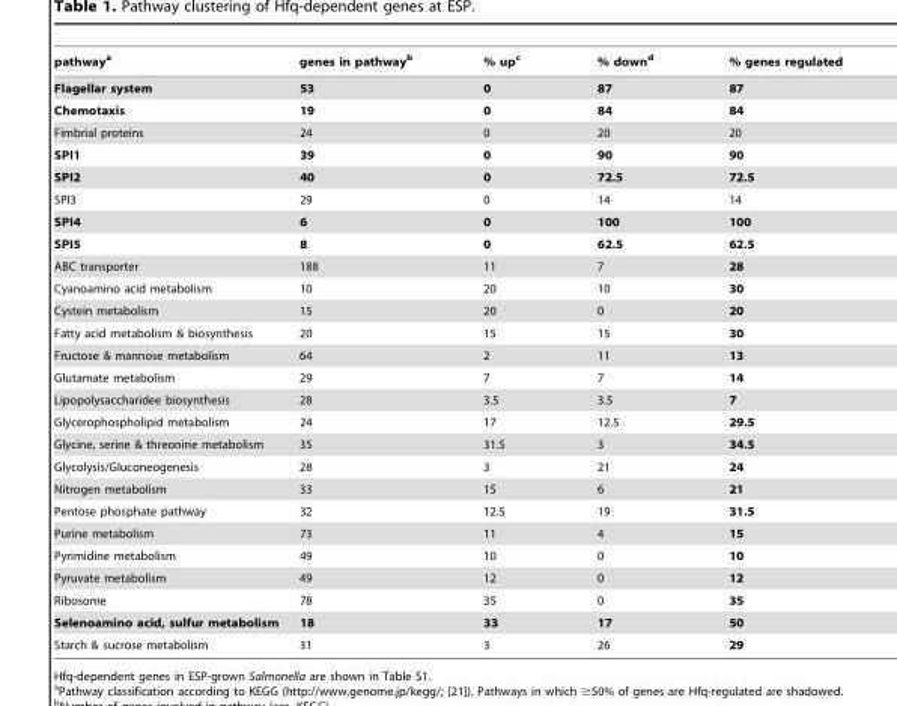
<table><thead><tr><td>pathway<sup>a</sup></td><td>genes in pathway<sup>b</sup></td><td>% up<sup>c</sup></td><td>% down<sup>d</sup></td><td>% genes regulated</td></tr></thead><tbody><tr><td>Flagellar system</td><td>53</td><td>0</td><td>87</td><td>87</td></tr><tr><td>Chemotaxis</td><td>19</td><td>0</td><td>84</td><td>84</td></tr><tr><td>Fimbrial proteins</td><td>24</td><td>0</td><td>20</td><td>20</td></tr><tr><td>SPI1</td><td>39</td><td>0</td><td>90</td><td>90</td></tr><tr><td>SPI2</td><td>40</td><td>0</td><td>72.5</td><td>72.5</td></tr><tr><td>SPI3</td><td>29</td><td>0</td><td>14</td><td>14</td></tr><tr><td>SPI4</td><td>6</td><td>0</td><td>100</td><td>100</td></tr><tr><td>SPI5</td><td>8</td><td>0</td><td>62.5</td><td>62.5</td></tr><tr><td>ABC transporter</td><td>188</td><td>11</td><td>7</td><td>28</td></tr><tr><td>Cyanoamino acid metabolism</td><td>10</td><td>20</td><td>10</td><td>30</td></tr><tr><td>Cystein metabolism</td><td>15</td><td>20</td><td>0</td><td>20</td></tr><tr><td>Fatty acid metabolism &amp; biosynthesis</td><td>20</td><td>15</td><td>15</td><td>30</td></tr><tr><td>Fructose &amp; mannose metabolism</td><td>64</td><td>2</td><td>11</td><td>13</td></tr><tr><td>Glutamate metabolism</td><td>29</td><td>7</td><td>7</td><td>14</td></tr><tr><td>Lipopolysaccharidee biosynthesis</td><td>28</td><td>3.5</td><td>3.5</td><td>7</td></tr><tr><td>Glycerophospholipid metabolism</td><td>24</td><td>17</td><td>12.5</td><td>29.5</td></tr><tr><td>Glycine, serine &amp; threonine metabolism</td><td>35</td><td>31.5</td><td>3</td><td>34.5</td></tr><tr><td>Glycolysis/Gluconeogenesis</td><td>28</td><td>3</td><td>21</td><td>24</td></tr><tr><td>Nitrogen metabolism</td><td>33</td><td>15</td><td>6</td><td>21</td></tr><tr><td>Pentose phosphate pathway</td><td>32</td><td>12.5</td><td>19</td><td>31.5</td></tr><tr><td>Purine metabolism</td><td>73</td><td>11</td><td>4</td><td>15</td></tr><tr><td>Pyrimidine metabolism</td><td>49</td><td>10</td><td>0</td><td>10</td></tr><tr><td>Pyruvate metabolism</td><td>49</td><td>12</td><td>0</td><td>12</td></tr><tr><td>Ribosome</td><td>78</td><td>35</td><td>0</td><td>35</td></tr><tr><td>Selenoamino acid, sulfur metabolism</td><td>18</td><td>33</td><td>17</td><td>50</td></tr><tr><td>Starch &amp; sucrose metabolism</td><td>31</td><td>3</td><td>26</td><td>29</td></tr></tbody></table>